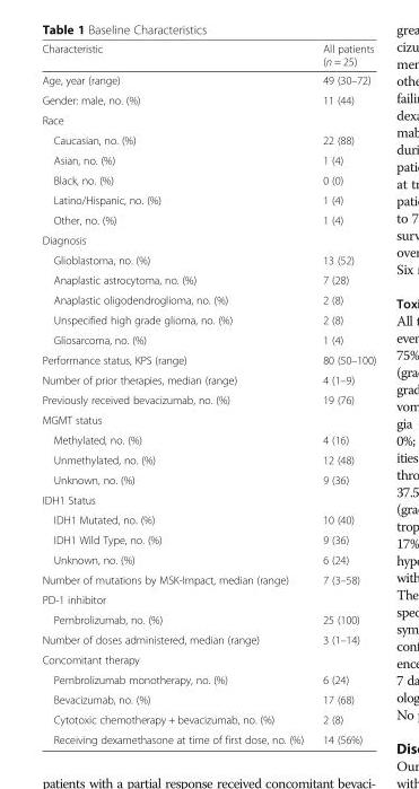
<table><thead><tr><td>Characteristic</td><td>All patients (n = 25)</td></tr></thead><tbody><tr><td>Age, year (range)</td><td>49 (30–72)</td></tr><tr><td>Gender: male, no. (%)</td><td>11 (44)</td></tr><tr><td colspan="2">Race</td></tr><tr><td>Caucasian, no. (%)</td><td>22 (88)</td></tr><tr><td>Asian, no. (%)</td><td>1 (4)</td></tr><tr><td>Black, no. (%)</td><td>0 (0)</td></tr><tr><td>Latino/Hispanic, no. (%)</td><td>1 (4)</td></tr><tr><td>Other, no. (%)</td><td>1 (4)</td></tr><tr><td colspan="2">Diagnosis</td></tr><tr><td>Glioblastoma, no. (%)</td><td>13 (52)</td></tr><tr><td>Anaplastic astrocytoma, no. (%)</td><td>7 (28)</td></tr><tr><td>Anaplastic oligodendroglioma, no. (%)</td><td>2 (8)</td></tr><tr><td>Unspecified high grade glioma, no. (%)</td><td>2 (8)</td></tr><tr><td>Gliosarcoma, no. (%)</td><td>1 (4)</td></tr><tr><td>Performance status, KPS (range)</td><td>80 (50–100)</td></tr><tr><td>Number of prior therapies, median (range)</td><td>4 (1–9)</td></tr><tr><td>Previously received bevacizumab, no. (%)</td><td>19 (76)</td></tr><tr><td colspan="2">MGMT status</td></tr><tr><td>Methylated, no. (%)</td><td>4 (16)</td></tr><tr><td>Unmethylated, no. (%)</td><td>12 (48)</td></tr><tr><td>Unknown, no. (%)</td><td>9 (36)</td></tr><tr><td colspan="2">IDH1 Status</td></tr><tr><td>IDH1 Mutated, no. (%)</td><td>10 (40)</td></tr><tr><td>IDH1 Wild Type, no. (%)</td><td>9 (36)</td></tr><tr><td>Unknown, no. (%)</td><td>6 (24)</td></tr><tr><td>Number of mutations by MSK-Impact, median (range)</td><td>7 (3–58)</td></tr><tr><td colspan="2">PD-1 inhibitor</td></tr><tr><td>Pembrolizumab, no. (%)</td><td>25 (100)</td></tr><tr><td>Number of doses administered, median (range)</td><td>3 (1–14)</td></tr><tr><td colspan="2">Concomitant therapy</td></tr><tr><td>Pembrolizumab monotherapy, no. (%)</td><td>6 (24)</td></tr><tr><td>Bevacizumab, no. (%)</td><td>17 (68)</td></tr><tr><td>Cytotoxic chemotherapy + bevacizumab, no. (%)</td><td>2 (8)</td></tr><tr><td>Receiving dexamethasone at time of first dose, no. (%)</td><td>14 (56%)</td></tr></tbody></table>